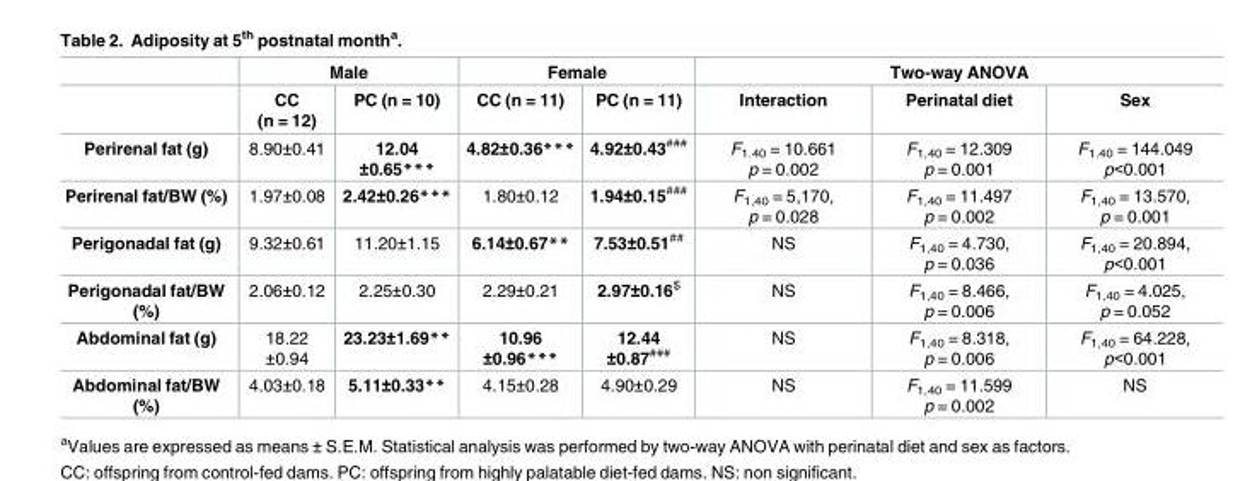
<table><thead><tr><td rowspan="2"></td><td colspan="2">Male</td><td colspan="2">Female</td><td colspan="3">Two-way ANOVA</td></tr><tr><td>CC (n = 12)</td><td>PC (n = 10)</td><td>CC (n = 11)</td><td>PC (n = 11)</td><td>Interaction</td><td>Perinatal diet</td><td>Sex</td></tr></thead><tbody><tr><td>Perirenal fat (g)</td><td>8.90±0.41</td><td>12.04 ±0.65***</td><td>4.82±0.36***</td><td>4.92±0.43<sup>###</sup></td><td>F<sub>1.40</sub> = 10.661 p = 0.002</td><td>F<sub>1,40</sub> = 12.309 p = 0.001</td><td>F<sub>1.40</sub> = 144.049 p&lt;0.001</td></tr><tr><td>Perirenal fat/BW (%)</td><td>1.97±0.08</td><td>2.42±0.26***</td><td>1.80±0.12</td><td>1.94±0.15<sup>###</sup></td><td>F<sub>1,40</sub> = 5,170, p = 0.028</td><td>F<sub>1,40</sub> = 11.497 p = 0.002</td><td>F<sub>1,40</sub> = 13.570, p = 0.001</td></tr><tr><td>Perigonadal fat (g)</td><td>9.32±0.61</td><td>11.20±1.15</td><td>6.14±0.67**</td><td>7.53±0.51<sup>##</sup></td><td>NS</td><td>F<sub>1,40</sub> = 4.730, p = 0.036</td><td>F<sub>1,40</sub> = 20.894, p&lt;0.001</td></tr><tr><td>Perigonadal fat/BW (%)</td><td>2.06±0.12</td><td>2.25±0.30</td><td>2.29±0.21</td><td>2.97±0.16<sup>$</sup></td><td>NS</td><td>F<sub>1,40</sub> = 8.466, p = 0.006</td><td>F<sub>1,40</sub> = 4.025, p = 0.052</td></tr><tr><td>Abdominal fat (g)</td><td>18.22 ±0.94</td><td>23.23±1.69**</td><td>10.96 ±0.96***</td><td>12.44 ±0.87<sup>###</sup></td><td>NS</td><td>F<sub>1,40</sub> = 8.318, p = 0.006</td><td>F<sub>1,40</sub> = 64.228, p&lt;0.001</td></tr><tr><td>Abdominal fat/BW (%)</td><td>4.03±0.18</td><td>5.11±0.33**</td><td>4.15±0.28</td><td>4.90±0.29</td><td>NS</td><td>F<sub>1,40</sub> = 11.599 p = 0.002</td><td>NS</td></tr></tbody></table>